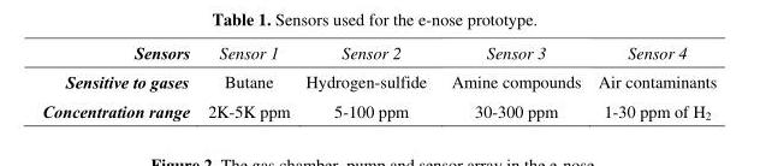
<table><thead><tr><td>Sensors</td><td>Sensor 1</td><td>Sensor 2</td><td>Sensor 3</td><td>Sensor 4</td></tr></thead><tbody><tr><td>Sensitive to gases</td><td>Butane</td><td>Hydrogen-sulfide</td><td>Amine compounds</td><td>Air contaminants</td></tr><tr><td>Concentration range</td><td>2K-5K ppm</td><td>5-100 ppm</td><td>30-300 ppm</td><td>1-30 ppm of H2</td></tr></tbody></table>